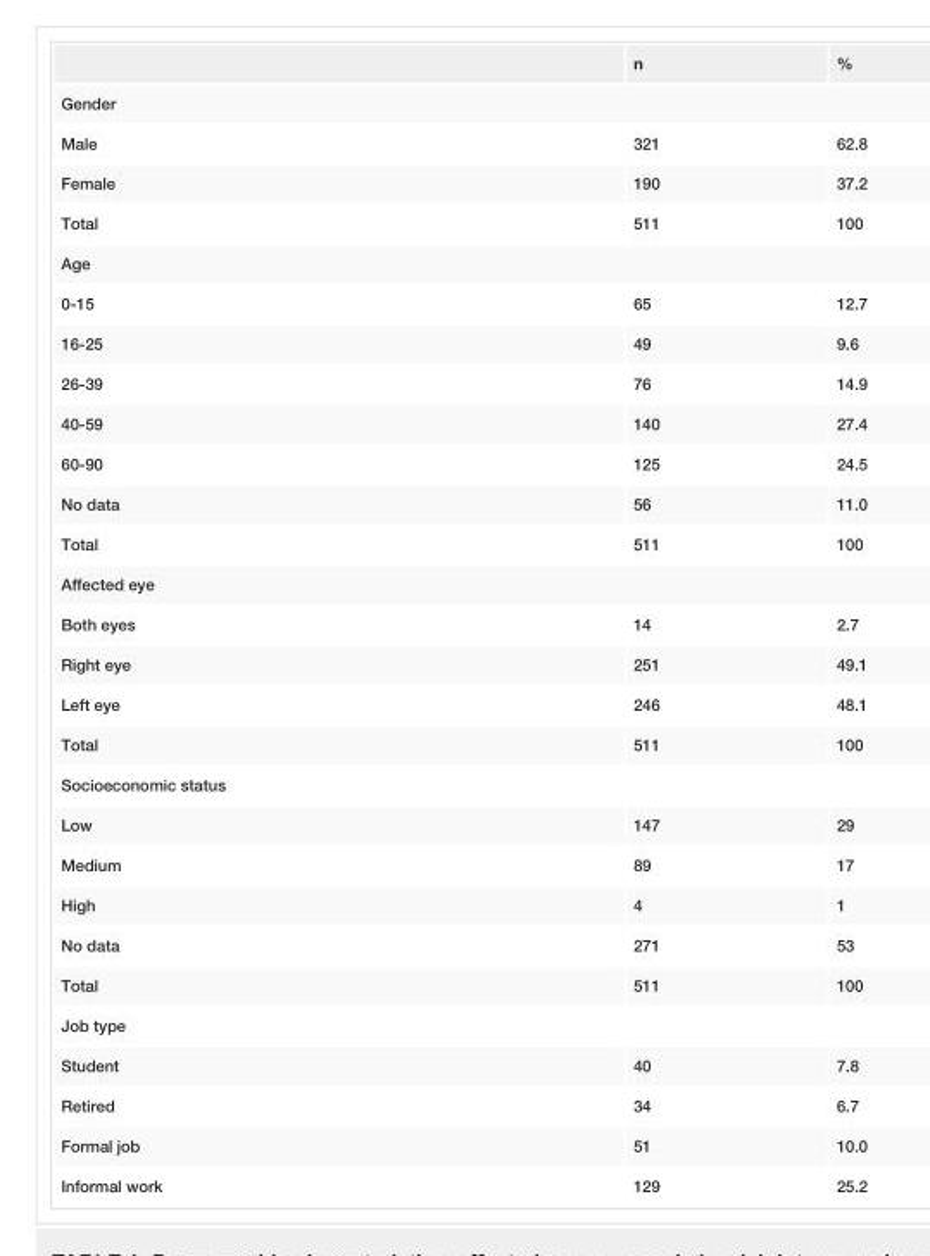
<table><thead><tr><td></td><td>n</td><td>%</td></tr></thead><tbody><tr><td colspan="3">Gender</td></tr><tr><td>Male</td><td>321</td><td>62.8</td></tr><tr><td>Female</td><td>190</td><td>37.2</td></tr><tr><td>Total</td><td>511</td><td>100</td></tr><tr><td colspan="3">Age</td></tr><tr><td>0-15</td><td>65</td><td>12.7</td></tr><tr><td>16-25</td><td>49</td><td>9.6</td></tr><tr><td>26-39</td><td>76</td><td>14.9</td></tr><tr><td>40-59</td><td>140</td><td>27.4</td></tr><tr><td>60-90</td><td>125</td><td>24.5</td></tr><tr><td>No data</td><td>56</td><td>11.0</td></tr><tr><td>Total</td><td>511</td><td>100</td></tr><tr><td colspan="3">Affected eye</td></tr><tr><td>Both eyes</td><td>14</td><td>2.7</td></tr><tr><td>Right eye</td><td>251</td><td>49.1</td></tr><tr><td>Left eye</td><td>246</td><td>48.1</td></tr><tr><td>Total</td><td>511</td><td>100</td></tr><tr><td colspan="3">Socioeconomic status</td></tr><tr><td>Low</td><td>147</td><td>29</td></tr><tr><td>Medium</td><td>89</td><td>17</td></tr><tr><td>High</td><td>4</td><td>1</td></tr><tr><td>No data</td><td>271</td><td>53</td></tr><tr><td>Total</td><td>511</td><td>100</td></tr><tr><td colspan="3">Job type</td></tr><tr><td>Student</td><td>40</td><td>7.8</td></tr><tr><td>Retired</td><td>34</td><td>6.7</td></tr><tr><td>Formal job</td><td>51</td><td>10.0</td></tr><tr><td>Informal work</td><td>129</td><td>25.2</td></tr></tbody></table>